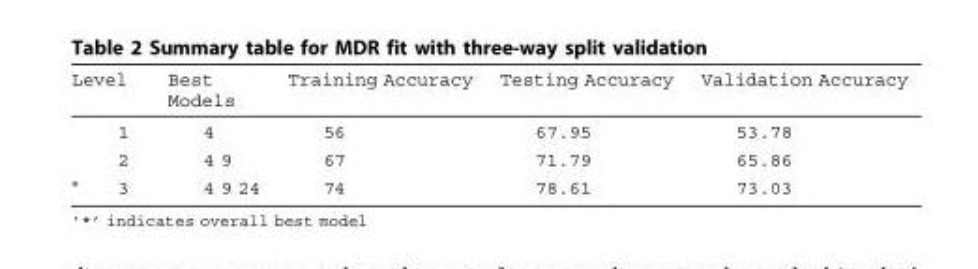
<table><thead><tr><td colspan="2">Level</td><td rowspan="2">Best Models 4</td><td rowspan="2">Training Accuracy 56</td><td rowspan="2">Testing Accuracy 67.95</td><td rowspan="2">Validation Accuracy 53.78</td></tr><tr><td></td><td>1</td></tr></thead><tbody><tr><td></td><td>2</td><td>4 9</td><td>67</td><td>71.79</td><td>65.86</td></tr><tr><td>*</td><td>3</td><td>4 9 24</td><td>74</td><td>78.61</td><td>73.03</td></tr></tbody></table>